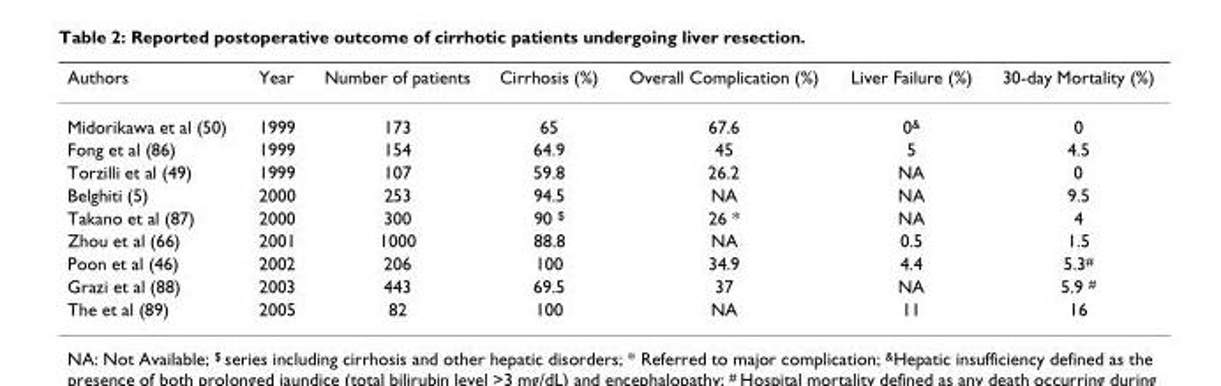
<table><thead><tr><td>Authors</td><td>Year</td><td>Number of patients</td><td>Cirrhosis (%)</td><td>Overall Complication (%)</td><td>Liver Failure (%)</td><td>30-day Mortality (%)</td></tr></thead><tbody><tr><td>Midorikawa et al (50)</td><td>1999</td><td>173</td><td>65</td><td>67.6</td><td>0<sup>&amp;</sup></td><td>0</td></tr><tr><td>Fong et al (86)</td><td>1999</td><td>154</td><td>64.9</td><td>45</td><td>5</td><td>4.5</td></tr><tr><td>Torzilli et al (49)</td><td>1999</td><td>107</td><td>59.8</td><td>26.2</td><td>NA</td><td>0</td></tr><tr><td>Belghiti (5)</td><td>2000</td><td>253</td><td>94.5</td><td>NA</td><td>NA</td><td>9.5</td></tr><tr><td>Takano et al (87)</td><td>2000</td><td>300</td><td>90 <sup>$</sup></td><td>26 *</td><td>NA</td><td>4</td></tr><tr><td>Zhou et al (66)</td><td>2001</td><td>1000</td><td>88.8</td><td>NA</td><td>0.5</td><td>1.5</td></tr><tr><td>Poon et al (46)</td><td>2002</td><td>206</td><td>100</td><td>34.9</td><td>4.4</td><td>5.3<sup>#</sup></td></tr><tr><td>Grazi et al (88)</td><td>2003</td><td>443</td><td>69.5</td><td>37</td><td>NA</td><td>5.9 <sup>#</sup></td></tr><tr><td>The et al (89)</td><td>2005</td><td>82</td><td>100</td><td>NA</td><td>11</td><td>16</td></tr></tbody></table>